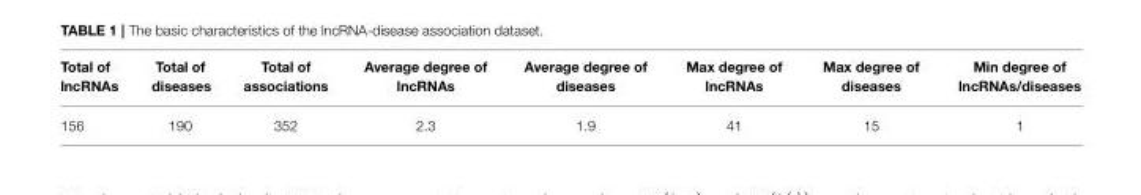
<table><thead><tr><td>Total of lncRNAs</td><td>Total of diseases</td><td>Total of associations</td><td>Average degree of lncRNAs</td><td>Average degree of diseases</td><td>Max degree of lncRNAs</td><td>Max degree of diseases</td><td>Min degree of lncRNAs/diseases</td></tr></thead><tbody><tr><td>156</td><td>190</td><td>352</td><td>2.3</td><td>1.9</td><td>41</td><td>15</td><td>1</td></tr></tbody></table>